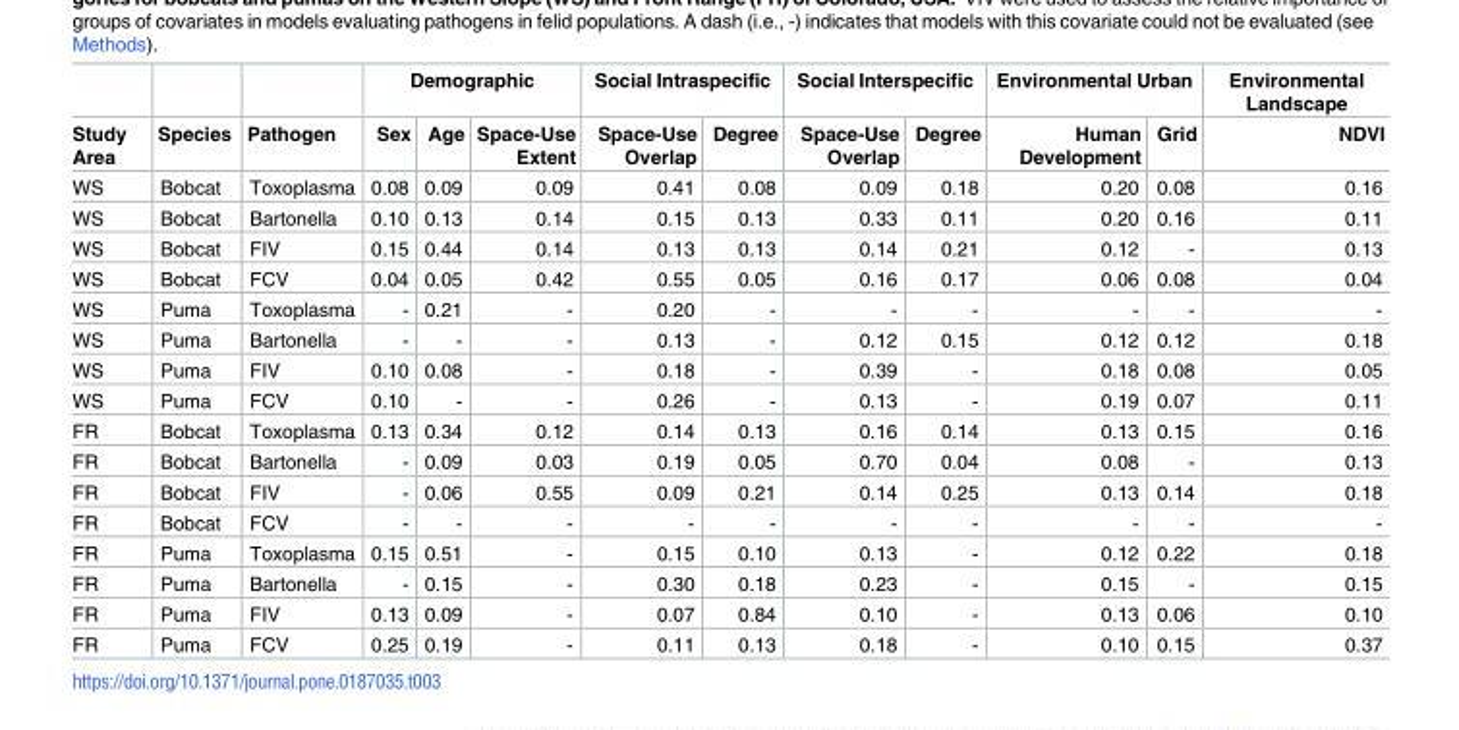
<table><thead><tr><td rowspan="2">Study Area</td><td rowspan="2">Species</td><td rowspan="2">Pathogen</td><td colspan="3">Demographic</td><td colspan="2">Social Intraspecific</td><td colspan="2">Social Interspecific</td><td colspan="2">Environmental Urban</td><td rowspan="2">Environmental Landscape NDVI</td></tr><tr><td>Sex</td><td>Age</td><td>Space-Use Extent</td><td>Space-Use Overlap</td><td>Degree</td><td>Space-Use Overlap</td><td>Degree</td><td>Human Development</td><td>Grid</td></tr></thead><tbody><tr><td>WS</td><td>Bobcat</td><td>Toxoplasma</td><td>0.08</td><td>0.09</td><td>0.09</td><td>0.41</td><td>0.08</td><td>0.09</td><td>0.18</td><td>0.20</td><td>0.08</td><td>0.16</td></tr><tr><td>WS</td><td>Bobcat</td><td>Bartonella</td><td>0.10</td><td>0.13</td><td>0.14</td><td>0.15</td><td>0.13</td><td>0.33</td><td>0.11</td><td>0.20</td><td>0.16</td><td>0.11</td></tr><tr><td>WS</td><td>Bobcat</td><td>FIV</td><td>0.15</td><td>0.44</td><td>0.14</td><td>0.13</td><td>0.13</td><td>0.14</td><td>0.21</td><td>0.12</td><td>-</td><td>0.13</td></tr><tr><td>WS</td><td>Bobcat</td><td>FCV</td><td>0.04</td><td>0.05</td><td>0.42</td><td>0.55</td><td>0.05</td><td>0.16</td><td>0.17</td><td>0.06</td><td>0.08</td><td>0.04</td></tr><tr><td>WS</td><td>Puma</td><td>Toxoplasma</td><td>-</td><td>0.21</td><td>-</td><td>0.20</td><td>-</td><td>-</td><td>-</td><td>-</td><td>-</td><td>-</td></tr><tr><td>WS</td><td>Puma</td><td>Bartonella</td><td>-</td><td>-</td><td>-</td><td>0.13</td><td>-</td><td>0.12</td><td>0.15</td><td>0.12</td><td>0.12</td><td>0.18</td></tr><tr><td>WS</td><td>Puma</td><td>FIV</td><td>0.10</td><td>0.08</td><td>-</td><td>0.18</td><td>-</td><td>0.39</td><td>-</td><td>0.18</td><td>0.08</td><td>0.05</td></tr><tr><td>WS</td><td>Puma</td><td>FCV</td><td>0.10</td><td>-</td><td>-</td><td>0.26</td><td>-</td><td>0.13</td><td>-</td><td>0.19</td><td>0.07</td><td>0.11</td></tr><tr><td>FR</td><td>Bobcat</td><td>Toxoplasma</td><td>0.13</td><td>0.34</td><td>0.12</td><td>0.14</td><td>0.13</td><td>0.16</td><td>0.14</td><td>0.13</td><td>0.15</td><td>0.16</td></tr><tr><td>FR</td><td>Bobcat</td><td>Bartonella</td><td>-</td><td>0.09</td><td>0.03</td><td>0.19</td><td>0.05</td><td>0.70</td><td>0.04</td><td>0.08</td><td>-</td><td>0.13</td></tr><tr><td>FR</td><td>Bobcat</td><td>FIV</td><td>-</td><td>0.06</td><td>0.55</td><td>0.09</td><td>0.21</td><td>0.14</td><td>0.25</td><td>0.13</td><td>0.14</td><td>0.18</td></tr><tr><td>FR</td><td>Bobcat</td><td>FCV</td><td>-</td><td>-</td><td>-</td><td>-</td><td>-</td><td>-</td><td>-</td><td>-</td><td>-</td><td>-</td></tr><tr><td>FR</td><td>Puma</td><td>Toxoplasma</td><td>0.15</td><td>0.51</td><td>-</td><td>0.15</td><td>0.10</td><td>0.13</td><td>-</td><td>0.12</td><td>0.22</td><td>0.18</td></tr><tr><td>FR</td><td>Puma</td><td>Bartonella</td><td>-</td><td>0.15</td><td>-</td><td>0.30</td><td>0.18</td><td>0.23</td><td>-</td><td>0.15</td><td>-</td><td>0.15</td></tr><tr><td>FR</td><td>Puma</td><td>FIV</td><td>0.13</td><td>0.09</td><td>-</td><td>0.07</td><td>0.84</td><td>0.10</td><td>-</td><td>0.13</td><td>0.06</td><td>0.10</td></tr><tr><td>FR</td><td>Puma</td><td>FCV</td><td>0.25</td><td>0.19</td><td>-</td><td>0.11</td><td>0.13</td><td>0.18</td><td>-</td><td>0.10</td><td>0.15</td><td>0.37</td></tr></tbody></table>